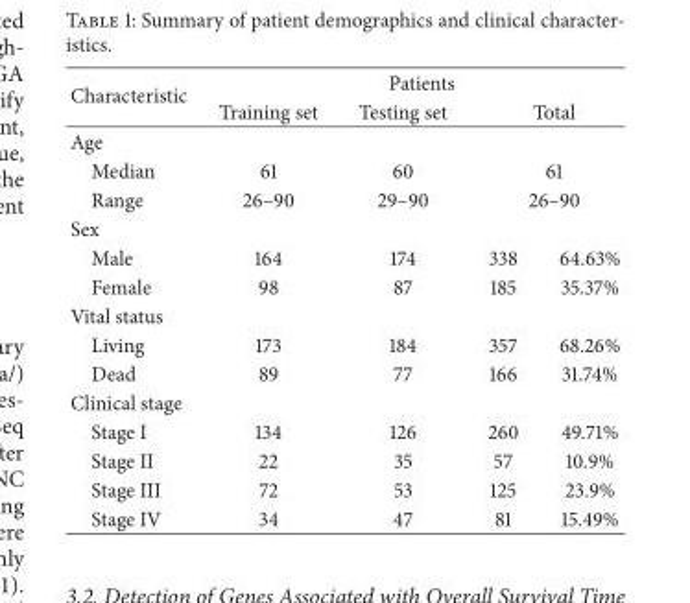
<table><thead><tr><td rowspan="3">Characteristic Age</td><td colspan="4">Patients</td></tr><tr><td rowspan="2">Training set</td><td rowspan="2">Testing set</td><td colspan="2">Total</td></tr><tr><td></td><td></td></tr></thead><tbody><tr><td>Median</td><td>61</td><td>60</td><td colspan="2">61</td></tr><tr><td>Range</td><td>26–90</td><td>29–90</td><td colspan="2">26–90</td></tr><tr><td colspan="5">Sex</td></tr><tr><td>Male</td><td>164</td><td>174</td><td>338</td><td>64.63%</td></tr><tr><td>Female</td><td>98</td><td>87</td><td>185</td><td>35.37%</td></tr><tr><td colspan="5">Vital status</td></tr><tr><td>Living</td><td>173</td><td>184</td><td>357</td><td>68.26%</td></tr><tr><td>Dead</td><td>89</td><td>77</td><td>166</td><td>31.74%</td></tr><tr><td colspan="5">Clinical stage</td></tr><tr><td>Stage I</td><td>134</td><td>126</td><td>260</td><td>49.71%</td></tr><tr><td>Stage II</td><td>22</td><td>35</td><td>57</td><td>10.9%</td></tr><tr><td>Stage III</td><td>72</td><td>53</td><td>125</td><td>23.9%</td></tr><tr><td>Stage IV</td><td>34</td><td>47</td><td>81</td><td>15.49%</td></tr></tbody></table>